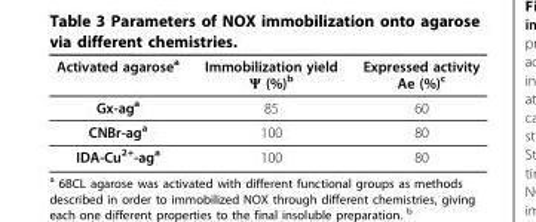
<table><thead><tr><td>Activated agarose<sup>a</sup></td><td>Immobilization yield Ψ (%)<sup>b</sup></td><td>Expressed activity Ae (%)<sup>c</sup></td></tr></thead><tbody><tr><td>Gx-ag<sup>a</sup></td><td>85</td><td>60</td></tr><tr><td>CNBr-ag<sup>a</sup></td><td>100</td><td>80</td></tr><tr><td>IDA-Cu<sup>2+</sup>-ag<sup>a</sup></td><td>100</td><td>80</td></tr></tbody></table>